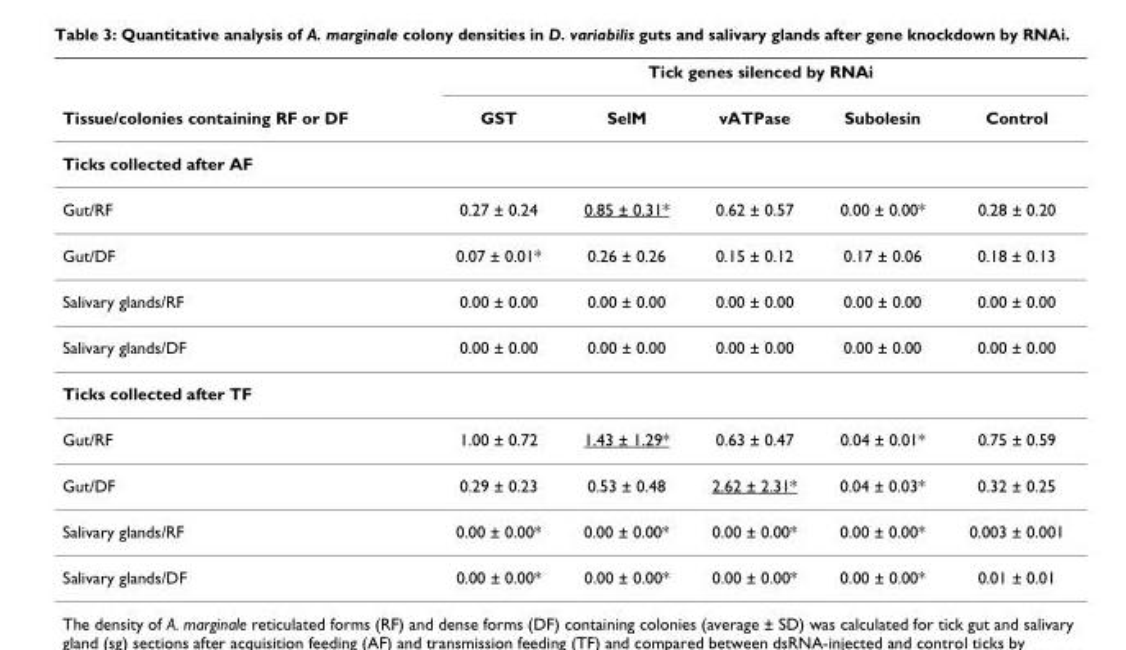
<table><thead><tr><td rowspan="2">Tissue/colonies containing RF or DF</td><td colspan="5">Tick genes silenced by RNAi</td></tr><tr><td>GST</td><td>SelM</td><td>vATPase</td><td>Subolesin</td><td>Control</td></tr></thead><tbody><tr><td colspan="6">Ticks collected after AF</td></tr><tr><td>Gut/RF</td><td>0.27 ± 0.24</td><td>0.85 ± 0.31*</td><td>0.62 ± 0.57</td><td>0.00 ± 0.00*</td><td>0.28 ± 0.20</td></tr><tr><td>Gut/DF</td><td>0.07 ± 0.01*</td><td>0.26 ± 0.26</td><td>0.15 ± 0.12</td><td>0.17 ± 0.06</td><td>0.18 ± 0.13</td></tr><tr><td>Salivary glands/RF</td><td>0.00 ± 0.00</td><td>0.00 ± 0.00</td><td>0.00 ± 0.00</td><td>0.00 ± 0.00</td><td>0.00 ± 0.00</td></tr><tr><td>Salivary glands/DF</td><td>0.00 ± 0.00</td><td>0.00 ± 0.00</td><td>0.00 ± 0.00</td><td>0.00 ± 0.00</td><td>0.00 ± 0.00</td></tr><tr><td colspan="6">Ticks collected after TF</td></tr><tr><td>Gut/RF</td><td>1.00 ± 0.72</td><td>1.43 ± 1.29*</td><td>0.63 ± 0.47</td><td>0.04 ± 0.01*</td><td>0.75 ± 0.59</td></tr><tr><td>Gut/DF</td><td>0.29 ± 0.23</td><td>0.53 ± 0.48</td><td>2.62 ± 2.31*</td><td>0.04 ± 0.03*</td><td>0.32 ± 0.25</td></tr><tr><td>Salivary glands/RF</td><td>0.00 ± 0.00*</td><td>0.00 ± 0.00*</td><td>0.00 ± 0.00*</td><td>0.00 ± 0.00*</td><td>0.003 ± 0.001</td></tr><tr><td>Salivary glands/DF</td><td>0.00 ± 0.00*</td><td>0.00 ± 0.00*</td><td>0.00 ± 0.00*</td><td>0.00 ± 0.00*</td><td>0.01 ± 0.01</td></tr></tbody></table>